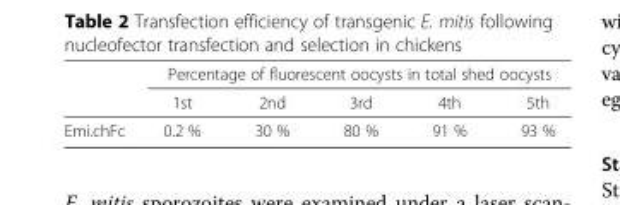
<table><thead><tr><td rowspan="2"></td><td colspan="5">Percentage of fluorescent oocysts in total shed oocysts</td></tr><tr><td>1st</td><td>2nd</td><td>3rd</td><td>4th</td><td>5th</td></tr></thead><tbody><tr><td>Emi.chFc</td><td>0.2 %</td><td>30 %</td><td>80 %</td><td>91 %</td><td>93 %</td></tr></tbody></table>